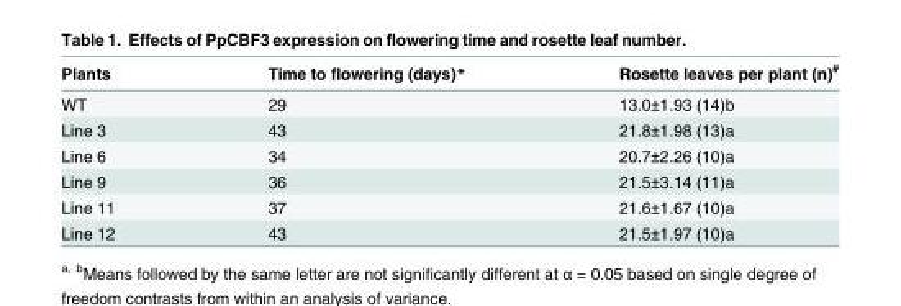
<table><thead><tr><td>Plants</td><td>Time to flowering (days)*</td><td>Rosette leaves per plant (n)<sup>#</sup></td></tr></thead><tbody><tr><td>WT</td><td>29</td><td>13.0±1.93 (14)<sup>b</sup></td></tr><tr><td>Line 3</td><td>43</td><td>21.8±1.98 (13)<sup>a</sup></td></tr><tr><td>Line 6</td><td>34</td><td>20.7±2.26 (10)<sup>a</sup></td></tr><tr><td>Line 9</td><td>36</td><td>21.5±3.14 (11)<sup>a</sup></td></tr><tr><td>Line 11</td><td>37</td><td>21.6±1.67 (10)<sup>a</sup></td></tr><tr><td>Line 12</td><td>43</td><td>21.5±1.97 (10)<sup>a</sup></td></tr></tbody></table>